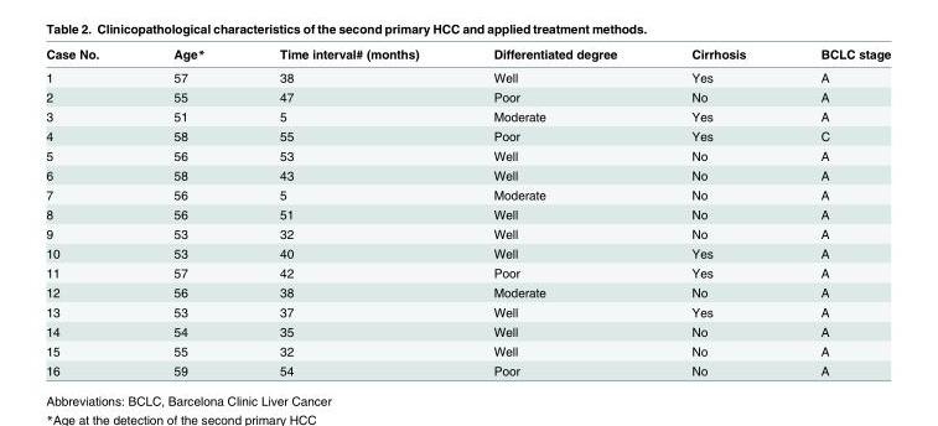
<table><thead><tr><td>Case No.</td><td>Age*</td><td>Time interval# (months)</td><td>Differentiated degree</td><td>Cirrhosis</td><td>BCLC stage</td></tr></thead><tbody><tr><td>1</td><td>57</td><td>38</td><td>Well</td><td>Yes</td><td>A</td></tr><tr><td>2</td><td>55</td><td>47</td><td>Poor</td><td>No</td><td>A</td></tr><tr><td>3</td><td>51</td><td>5</td><td>Moderate</td><td>Yes</td><td>A</td></tr><tr><td>4</td><td>58</td><td>55</td><td>Poor</td><td>Yes</td><td>C</td></tr><tr><td>5</td><td>56</td><td>53</td><td>Well</td><td>No</td><td>A</td></tr><tr><td>6</td><td>58</td><td>43</td><td>Well</td><td>No</td><td>A</td></tr><tr><td>7</td><td>56</td><td>5</td><td>Moderate</td><td>No</td><td>A</td></tr><tr><td>8</td><td>56</td><td>51</td><td>Well</td><td>No</td><td>A</td></tr><tr><td>9</td><td>53</td><td>32</td><td>Well</td><td>No</td><td>A</td></tr><tr><td>10</td><td>53</td><td>40</td><td>Well</td><td>Yes</td><td>A</td></tr><tr><td>11</td><td>57</td><td>42</td><td>Poor</td><td>Yes</td><td>A</td></tr><tr><td>12</td><td>56</td><td>38</td><td>Moderate</td><td>No</td><td>A</td></tr><tr><td>13</td><td>53</td><td>37</td><td>Well</td><td>Yes</td><td>A</td></tr><tr><td>14</td><td>54</td><td>35</td><td>Well</td><td>No</td><td>A</td></tr><tr><td>15</td><td>55</td><td>32</td><td>Well</td><td>No</td><td>A</td></tr><tr><td>16</td><td>59</td><td>54</td><td>Poor</td><td>No</td><td>A</td></tr></tbody></table>